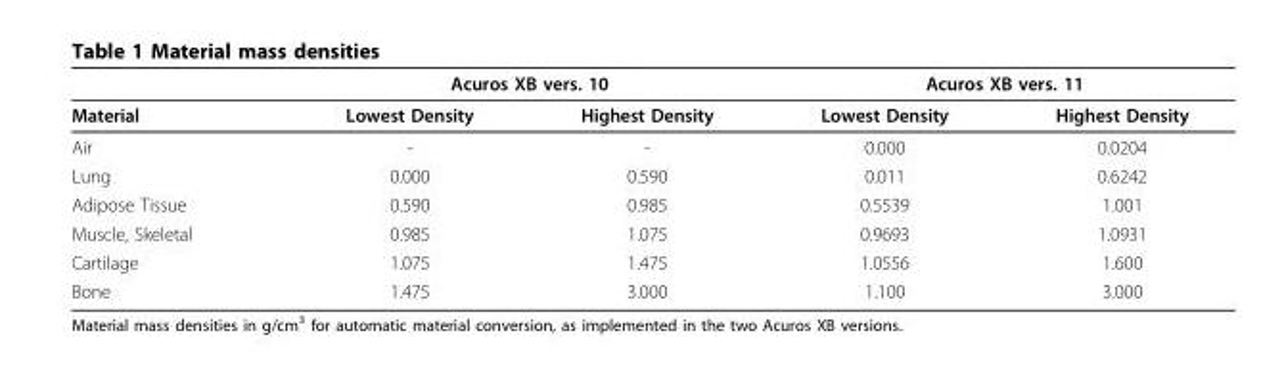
<table><thead><tr><td rowspan="2">Material</td><td colspan="2">Acuros XB vers. 10</td><td colspan="2">Acuros XB vers. 11</td></tr><tr><td>Lowest Density</td><td>Highest Density</td><td>Lowest Density</td><td>Highest Density</td></tr></thead><tbody><tr><td>Air</td><td>-</td><td>-</td><td>0.000</td><td>0.0204</td></tr><tr><td>Lung</td><td>0.000</td><td>0.590</td><td>0.011</td><td>0.6242</td></tr><tr><td>Adipose Tissue</td><td>0.590</td><td>0.985</td><td>0.5539</td><td>1.001</td></tr><tr><td>Muscle, Skeletal</td><td>0.985</td><td>1.075</td><td>0.9693</td><td>1.0931</td></tr><tr><td>Cartilage</td><td>1.075</td><td>1.475</td><td>1.0556</td><td>1.600</td></tr><tr><td>Bone</td><td>1.475</td><td>3.000</td><td>1.100</td><td>3.000</td></tr></tbody></table>